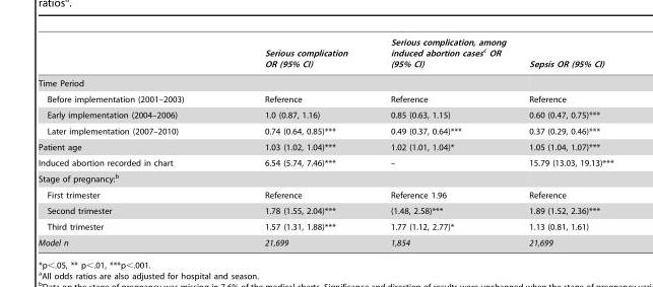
<table><thead><tr><td></td><td>Serious complication OR (95% CI)</td><td>Serious complication, among induced abortion casesc OR (95% CI)</td><td>Sepsis OR (95% CI)</td></tr></thead><tbody><tr><td colspan="4">Time Period</td></tr><tr><td>Before implementation (2001–2003)</td><td>Reference</td><td>Reference</td><td>Reference</td></tr><tr><td>Early implementation (2004–2006)</td><td>1.0 (0.87, 1.16)</td><td>0.85 (0.63, 1.15)</td><td>0.60 (0.47, 0.75)***</td></tr><tr><td>Later implementation (2007–2010)</td><td>0.74 (0.64, 0.85)***</td><td>0.49 (0.37, 0.64)***</td><td>0.37 (0.29, 0.46)***</td></tr><tr><td>Patient age</td><td>1.03 (1.02, 1.04)***</td><td>1.02 (1.01, 1.04)*</td><td>1.05 (1.04, 1.07)***</td></tr><tr><td>Induced abortion recorded in chart</td><td>6.54 (5.74, 7.46)***</td><td>–</td><td>15.79 (13.03, 19.13)***</td></tr><tr><td colspan="4">Stage of pregnancy:<sup>b</sup></td></tr><tr><td>First trimester</td><td>Reference</td><td>Reference 1.96</td><td>Reference</td></tr><tr><td>Second trimester</td><td>1.78 (1.55, 2.04)***</td><td>(1.48, 2.58)***</td><td>1.89 (1.52, 2.36)***</td></tr><tr><td>Third trimester</td><td>1.57 (1.31, 1.88)***</td><td>1.77 (1.12, 2.77)*</td><td>1.13 (0.81, 1.61)</td></tr><tr><td>Model n</td><td>21,699</td><td>1,854</td><td>21,699</td></tr></tbody></table>